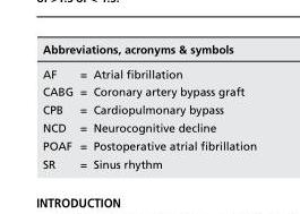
<table><thead><tr><td colspan="2">Abbreviations, acronyms &amp; symbols</td></tr><tr><td>AF</td><td>= Atrial fibrillation</td></tr></thead><tbody><tr><td>CABG</td><td>= Coronary artery bypass graft</td></tr><tr><td>CPB</td><td>= Cardiopulmonary bypass</td></tr><tr><td>NCD</td><td>= Neurocognitive decline</td></tr><tr><td>POAF</td><td>= Postoperative atrial fibrillation</td></tr><tr><td>SR</td><td>= Sinus rhythm</td></tr></tbody></table>